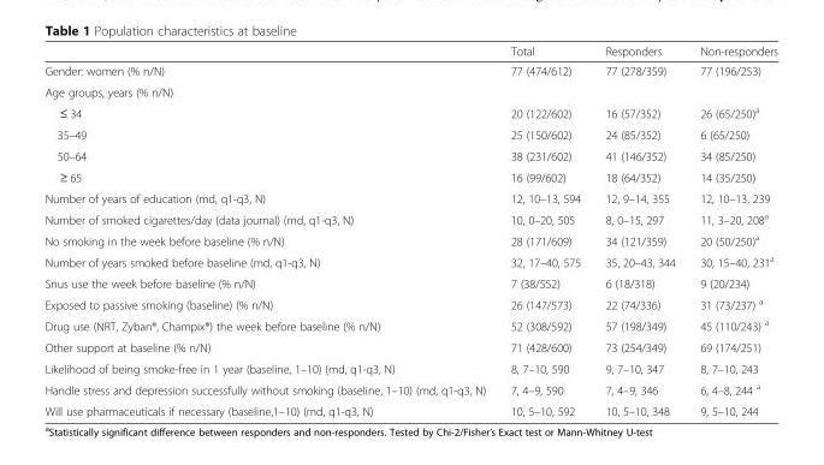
<table><thead><tr><td></td><td>Total</td><td>Responders</td><td>Non-responders</td></tr></thead><tbody><tr><td>Gender: women (% n/N)</td><td>77 (474/612)</td><td>77 (278/359)</td><td>77 (196/253)</td></tr><tr><td colspan="4">Age groups, years (% n/N)</td></tr><tr><td>≤ 34</td><td>20 (122/602)</td><td>16 (57/352)</td><td>26 (65/250)<sup>a</sup></td></tr><tr><td>35–49</td><td>25 (150/602)</td><td>24 (85/352)</td><td>6 (65/250)</td></tr><tr><td>50–64</td><td>38 (231/602)</td><td>41 (146/352)</td><td>34 (85/250)</td></tr><tr><td>≥ 65</td><td>16 (99/602)</td><td>18 (64/352)</td><td>14 (35/250)</td></tr><tr><td>Number of years of education (md, q1-q3, N)</td><td>12, 10–13, 594</td><td>12, 9–14, 355</td><td>12, 10–13, 239</td></tr><tr><td>Number of smoked cigarettes/day (data journal) (md, q1-q3, N)</td><td>10, 0–20, 505</td><td>8, 0–15, 297</td><td>11, 3–20, 208<sup>a</sup></td></tr><tr><td>No smoking in the week before baseline (% n/N)</td><td>28 (171/609)</td><td>34 (121/359)</td><td>20 (50/250)<sup>a</sup></td></tr><tr><td>Number of years smoked before baseline (md, q1-q3, N)</td><td>32, 17–40, 575</td><td>35, 20–43, 344</td><td>30, 15–40, 231<sup>a</sup></td></tr><tr><td>Snus use the week before baseline (% n/N)</td><td>7 (38/552)</td><td>6 (18/318)</td><td>9 (20/234)</td></tr><tr><td>Exposed to passive smoking (baseline) (% n/N)</td><td>26 (147/573)</td><td>22 (74/336)</td><td>31 (73/237) <sup>a</sup></td></tr><tr><td>Drug use (NRT, Zyban®, Champix®) the week before baseline (% n/N)</td><td>52 (308/592)</td><td>57 (198/349)</td><td>45 (110/243) <sup>a</sup></td></tr><tr><td>Other support at baseline (% n/N)</td><td>71 (428/600)</td><td>73 (254/349)</td><td>69 (174/251)</td></tr><tr><td>Likelihood of being smoke-free in 1 year (baseline, 1–10) (md, q1-q3, N)</td><td>8, 7–10, 590</td><td>9, 7–10, 347</td><td>8, 7–10, 243</td></tr><tr><td>Handle stress and depression successfully without smoking (baseline, 1–10) (md, q1-q3, N)</td><td>7, 4–9, 590</td><td>7, 4–9, 346</td><td>6, 4–8, 244 <sup>a</sup></td></tr><tr><td>Will use pharmaceuticals if necessary (baseline,1–10) (md, q1-q3, N)</td><td>10, 5–10, 592</td><td>10, 5–10, 348</td><td>9, 5–10, 244</td></tr></tbody></table>